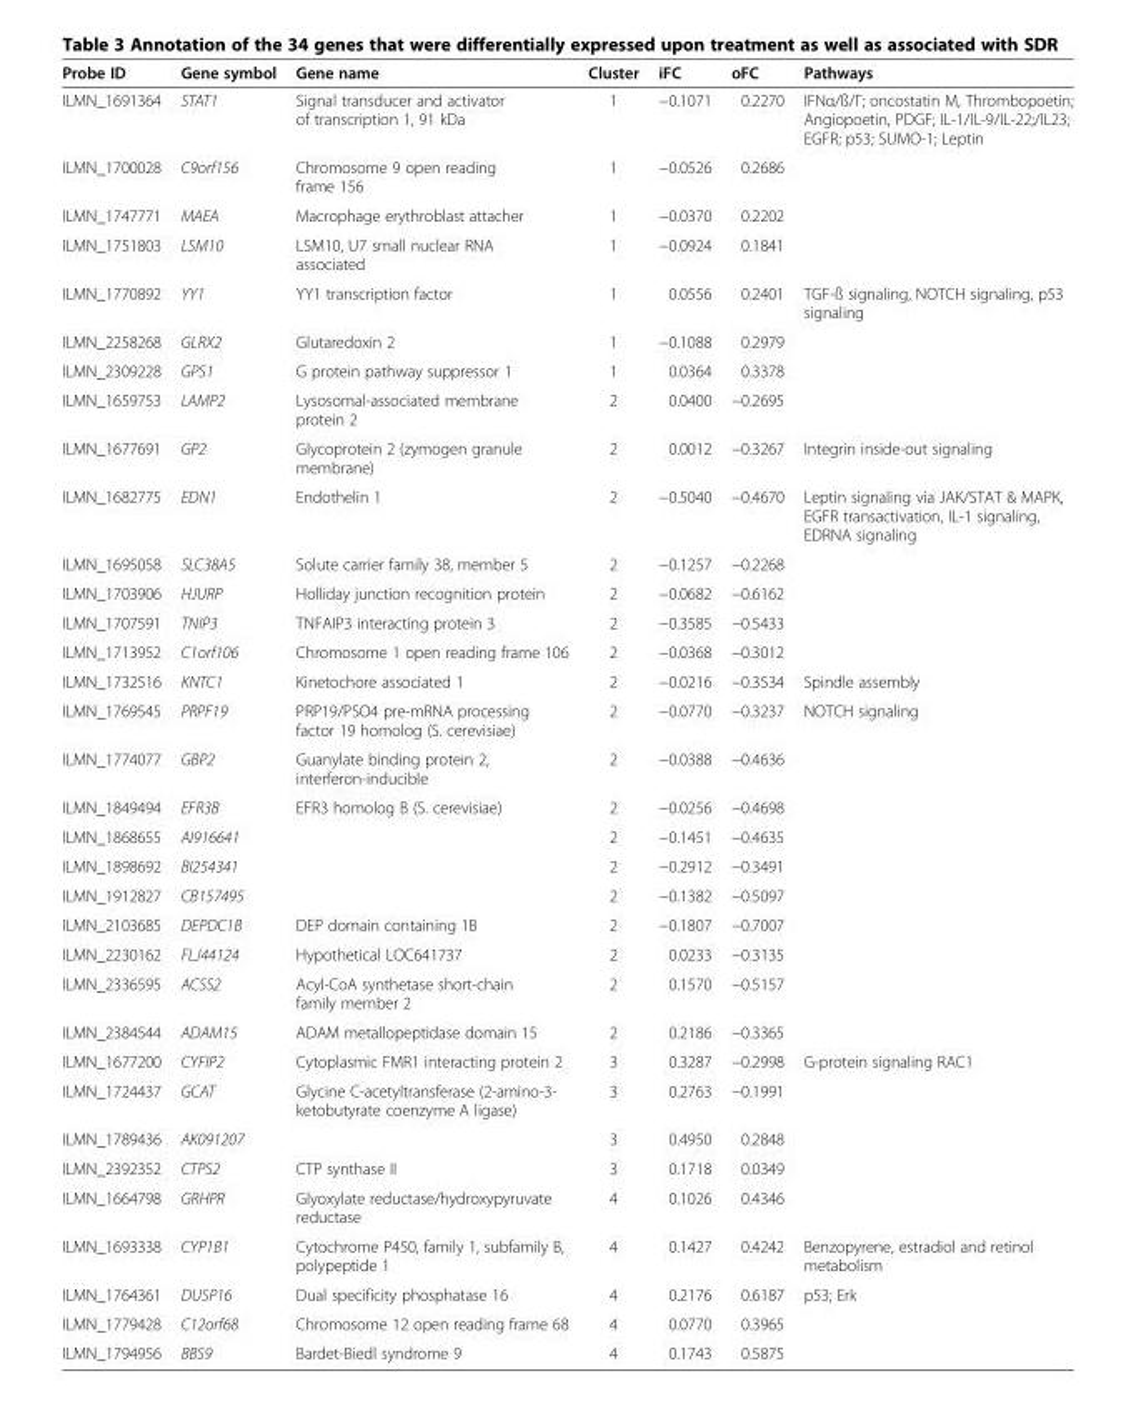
<table><thead><tr><td>Probe ID</td><td>Gene symbol</td><td>Gene name</td><td>Cluster</td><td>iFC</td><td>oFC</td><td>Pathways</td></tr></thead><tbody><tr><td>ILMN_1691364</td><td>STAT1</td><td>Signal transducer and activator of transcription 1, 91 kDa</td><td>1</td><td>−0.1071</td><td>0.2270</td><td>IFNα/ß/Γ; oncostatin M, Thrombopoetin; Angiopoetin, PDGF; IL-1/IL-9/IL-22;/IL23; EGFR; p53; SUMO-1; Leptin</td></tr><tr><td>ILMN_1700028</td><td>C9orf156</td><td>Chromosome 9 open reading frame 156</td><td>1</td><td>−0.0526</td><td>0.2686</td><td></td></tr><tr><td>ILMN_1747771</td><td>MAEA</td><td>Macrophage erythroblast attacher</td><td>1</td><td>−0.0370</td><td>0.2202</td><td></td></tr><tr><td>ILMN_1751803</td><td>LSM10</td><td>LSM10, U7 small nuclear RNA associated</td><td>1</td><td>−0.0924</td><td>0.1841</td><td></td></tr><tr><td>ILMN_1770892</td><td>YY1</td><td>YY1 transcription factor</td><td>1</td><td>0.0556</td><td>0.2401</td><td>TGF-ß signaling, NOTCH signaling, p53 signaling</td></tr><tr><td>ILMN_2258268</td><td>GLRX2</td><td>Glutaredoxin 2</td><td>1</td><td>−0.1088</td><td>0.2979</td><td></td></tr><tr><td>ILMN_2309228</td><td>GPS1</td><td>G protein pathway suppressor 1</td><td>1</td><td>0.0364</td><td>0.3378</td><td></td></tr><tr><td>ILMN_1659753</td><td>LAMP2</td><td>Lysosomal-associated membrane protein 2</td><td>2</td><td>0.0400</td><td>−0.2695</td><td></td></tr><tr><td>ILMN_1677691</td><td>GP2</td><td>Glycoprotein 2 (zymogen granule membrane)</td><td>2</td><td>0.0012</td><td>−0.3267</td><td>Integrin inside-out signaling</td></tr><tr><td>ILMN_1682775</td><td>EDN1</td><td>Endothelin 1</td><td>2</td><td>−0.5040</td><td>−0.4670</td><td>Leptin signaling via JAK/STAT &amp; MAPK, EGFR transactivation, IL-1 signaling, EDRNA signaling</td></tr><tr><td>ILMN_1695058</td><td>SLC38A5</td><td>Solute carrier family 38, member 5</td><td>2</td><td>−0.1257</td><td>−0.2268</td><td></td></tr><tr><td>ILMN_1703906</td><td>HJURP</td><td>Holliday junction recognition protein</td><td>2</td><td>−0.0682</td><td>−0.6162</td><td></td></tr><tr><td>ILMN_1707591</td><td>TNIP3</td><td>TNFAIP3 interacting protein 3</td><td>2</td><td>−0.3585</td><td>−0.5433</td><td></td></tr><tr><td>ILMN_1713952</td><td>C1orf106</td><td>Chromosome 1 open reading frame 106</td><td>2</td><td>−0.0368</td><td>−0.3012</td><td></td></tr><tr><td>ILMN_1732516</td><td>KNTC1</td><td>Kinetochore associated 1</td><td>2</td><td>−0.0216</td><td>−0.3534</td><td>Spindle assembly</td></tr><tr><td>ILMN_1769545</td><td>PRPF19</td><td>PRP19/PSO4 pre-mRNA processing factor 19 homolog (S. cerevisiae)</td><td>2</td><td>−0.0770</td><td>−0.3237</td><td>NOTCH signaling</td></tr><tr><td>ILMN_1774077</td><td>GBP2</td><td>Guanylate binding protein 2, interferon-inducible</td><td>2</td><td>−0.0388</td><td>−0.4636</td><td></td></tr><tr><td>ILMN_1849494</td><td>EFR3B</td><td>EFR3 homolog B (S. cerevisiae)</td><td>2</td><td>−0.0256</td><td>−0.4698</td><td></td></tr><tr><td>ILMN_1868655</td><td>AI916641</td><td></td><td>2</td><td>−0.1451</td><td>−0.4635</td><td></td></tr><tr><td>ILMN_1898692</td><td>BI254341</td><td></td><td>2</td><td>−0.2912</td><td>−0.3491</td><td></td></tr><tr><td>ILMN_1912827</td><td>CB157495</td><td></td><td>2</td><td>−0.1382</td><td>−0.5097</td><td></td></tr><tr><td>ILMN_2103685</td><td>DEPDC1B</td><td>DEP domain containing 1B</td><td>2</td><td>−0.1807</td><td>−0.7007</td><td></td></tr><tr><td>ILMN_2230162</td><td>FLJ44124</td><td>Hypothetical LOC641737</td><td>2</td><td>0.0233</td><td>−0.3135</td><td></td></tr><tr><td>ILMN_2336595</td><td>ACSS2</td><td>Acyl-CoA synthetase short-chain family member 2</td><td>2</td><td>0.1570</td><td>−0.5157</td><td></td></tr><tr><td>ILMN_2384544</td><td>ADAM15</td><td>ADAM metallopeptidase domain 15</td><td>2</td><td>0.2186</td><td>−0.3365</td><td></td></tr><tr><td>ILMN_1677200</td><td>CYFIP2</td><td>Cytoplasmic FMR1 interacting protein 2</td><td>3</td><td>0.3287</td><td>−0.2998</td><td>G-protein signaling RAC1</td></tr><tr><td>ILMN_1724437</td><td>GCAT</td><td>Glycine C-acetyltransferase (2-amino-3- ketobutyrate coenzyme A ligase)</td><td>3</td><td>0.2763</td><td>−0.1991</td><td></td></tr><tr><td>ILMN_1789436</td><td>AK091207</td><td></td><td>3</td><td>0.4950</td><td>0.2848</td><td></td></tr><tr><td>ILMN_2392352</td><td>CTPS2</td><td>CTP synthase II</td><td>3</td><td>0.1718</td><td>0.0349</td><td></td></tr><tr><td>ILMN_1664798</td><td>GRHPR</td><td>Glyoxylate reductase/hydroxypyruvate reductase</td><td>4</td><td>0.1026</td><td>0.4346</td><td></td></tr><tr><td>ILMN_1693338</td><td>CYP1B1</td><td>Cytochrome P450, family 1, subfamily B, polypeptide 1</td><td>4</td><td>0.1427</td><td>0.4242</td><td>Benzopyrene, estradiol and retinol metabolism</td></tr><tr><td>ILMN_1764361</td><td>DUSP16</td><td>Dual specificity phosphatase 16</td><td>4</td><td>0.2176</td><td>0.6187</td><td>p53; Erk</td></tr><tr><td>ILMN_1779428</td><td>C12orf68</td><td>Chromosome 12 open reading frame 68</td><td>4</td><td>0.0770</td><td>0.3965</td><td></td></tr><tr><td>ILMN_1794956</td><td>BBS9</td><td>Bardet-Biedl syndrome 9</td><td>4</td><td>0.1743</td><td>0.5875</td><td></td></tr></tbody></table>